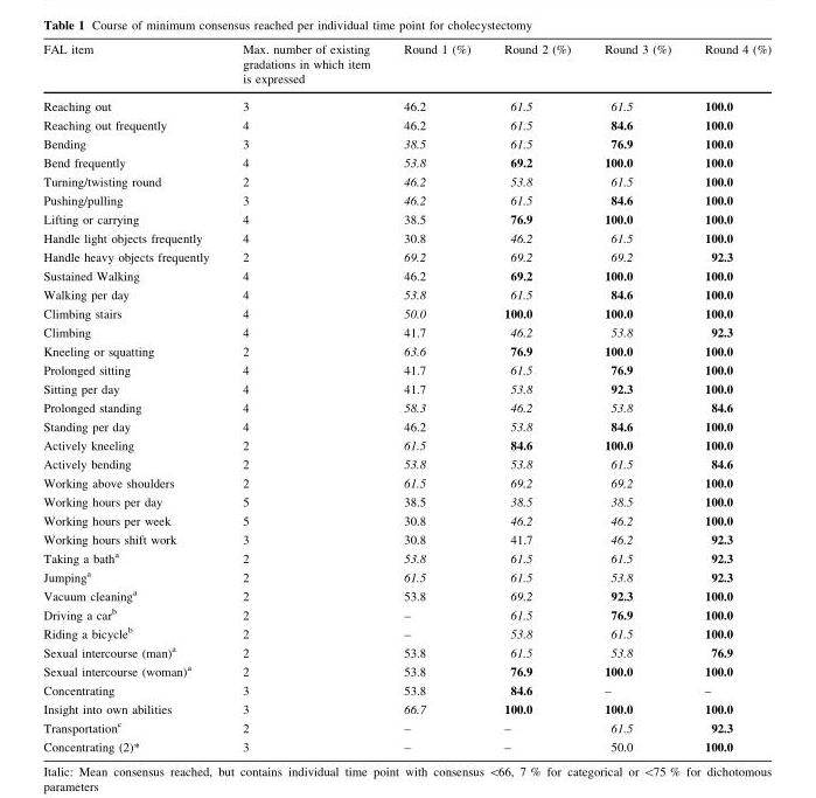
<table><thead><tr><td>FAL item</td><td>Max. number of existing gradations in which item is expressed</td><td>Round 1 (%)</td><td>Round 2 (%)</td><td>Round 3 (%)</td><td>Round 4 (%)</td></tr></thead><tbody><tr><td>Reaching out</td><td>3</td><td>46.2</td><td>61.5</td><td>61.5</td><td>100.0</td></tr><tr><td>Reaching out frequently</td><td>4</td><td>46.2</td><td>61.5</td><td>84.6</td><td>100.0</td></tr><tr><td>Bending</td><td>3</td><td>38.5</td><td>61.5</td><td>76.9</td><td>100.0</td></tr><tr><td>Bend frequently</td><td>4</td><td>53.8</td><td>69.2</td><td>100.0</td><td>100.0</td></tr><tr><td>Turning/twisting round</td><td>2</td><td>46.2</td><td>53.8</td><td>61.5</td><td>100.0</td></tr><tr><td>Pushing/pulling</td><td>3</td><td>46.2</td><td>61.5</td><td>84.6</td><td>100.0</td></tr><tr><td>Lifting or carrying</td><td>4</td><td>38.5</td><td>76.9</td><td>100.0</td><td>100.0</td></tr><tr><td>Handle light objects frequently</td><td>4</td><td>30.8</td><td>46.2</td><td>61.5</td><td>100.0</td></tr><tr><td>Handle heavy objects frequently</td><td>2</td><td>69.2</td><td>69.2</td><td>69.2</td><td>92.3</td></tr><tr><td>Sustained Walking</td><td>4</td><td>46.2</td><td>69.2</td><td>100.0</td><td>100.0</td></tr><tr><td>Walking per day</td><td>4</td><td>53.8</td><td>61.5</td><td>84.6</td><td>100.0</td></tr><tr><td>Climbing stairs</td><td>4</td><td>50.0</td><td>100.0</td><td>100.0</td><td>100.0</td></tr><tr><td>Climbing</td><td>4</td><td>41.7</td><td>46.2</td><td>53.8</td><td>92.3</td></tr><tr><td>Kneeling or squatting</td><td>2</td><td>63.6</td><td>76.9</td><td>100.0</td><td>100.0</td></tr><tr><td>Prolonged sitting</td><td>4</td><td>41.7</td><td>61.5</td><td>76.9</td><td>100.0</td></tr><tr><td>Sitting per day</td><td>4</td><td>41.7</td><td>53.8</td><td>92.3</td><td>100.0</td></tr><tr><td>Prolonged standing</td><td>4</td><td>58.3</td><td>46.2</td><td>53.8</td><td>84.6</td></tr><tr><td>Standing per day</td><td>4</td><td>46.2</td><td>53.8</td><td>84.6</td><td>100.0</td></tr><tr><td>Actively kneeling</td><td>2</td><td>61.5</td><td>84.6</td><td>100.0</td><td>100.0</td></tr><tr><td>Actively bending</td><td>2</td><td>53.8</td><td>53.8</td><td>61.5</td><td>84.6</td></tr><tr><td>Working above shoulders</td><td>2</td><td>61.5</td><td>69.2</td><td>69.2</td><td>100.0</td></tr><tr><td>Working hours per day</td><td>5</td><td>38.5</td><td>38.5</td><td>38.5</td><td>100.0</td></tr><tr><td>Working hours per week</td><td>5</td><td>30.8</td><td>46.2</td><td>46.2</td><td>100.0</td></tr><tr><td>Working hours shift work</td><td>3</td><td>30.8</td><td>41.7</td><td>46.2</td><td>92.3</td></tr><tr><td>Taking a bath<sup>a</sup></td><td>2</td><td>53.8</td><td>61.5</td><td>61.5</td><td>92.3</td></tr><tr><td>Jumping<sup>a</sup></td><td>2</td><td>61.5</td><td>61.5</td><td>53.8</td><td>92.3</td></tr><tr><td>Vacuum cleaning<sup>a</sup></td><td>2</td><td>53.8</td><td>69.2</td><td>92.3</td><td>100.0</td></tr><tr><td>Driving a car<sup>b</sup></td><td>2</td><td>–</td><td>61.5</td><td>76.9</td><td>100.0</td></tr><tr><td>Riding a bicycle<sup>b</sup></td><td>2</td><td>–</td><td>53.8</td><td>61.5</td><td>100.0</td></tr><tr><td>Sexual intercourse (man)<sup>a</sup></td><td>2</td><td>53.8</td><td>61.5</td><td>53.8</td><td>76.9</td></tr><tr><td>Sexual intercourse (woman)<sup>a</sup></td><td>2</td><td>53.8</td><td>76.9</td><td>100.0</td><td>100.0</td></tr><tr><td>Concentrating</td><td>3</td><td>53.8</td><td>84.6</td><td>–</td><td>–</td></tr><tr><td>Insight into own abilities</td><td>3</td><td>66.7</td><td>100.0</td><td>100.0</td><td>100.0</td></tr><tr><td>Transportation<sup>c</sup></td><td>2</td><td>–</td><td>–</td><td>61.5</td><td>92.3</td></tr><tr><td>Concentrating (2)*</td><td>3</td><td>–</td><td>–</td><td>50.0</td><td>100.0</td></tr></tbody></table>